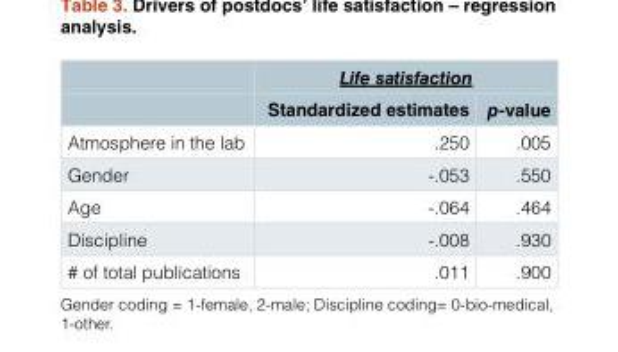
<table><thead><tr><td rowspan="2"></td><td colspan="2">Life satisfaction</td></tr><tr><td>Standardized estimates</td><td>p-value</td></tr></thead><tbody><tr><td>Atmosphere in the lab</td><td>.250</td><td>.005</td></tr><tr><td>Gender</td><td>-.053</td><td>.550</td></tr><tr><td>Age</td><td>-.064</td><td>.464</td></tr><tr><td>Discipline</td><td>-.008</td><td>.930</td></tr><tr><td># of total publications</td><td>.011</td><td>.900</td></tr></tbody></table>